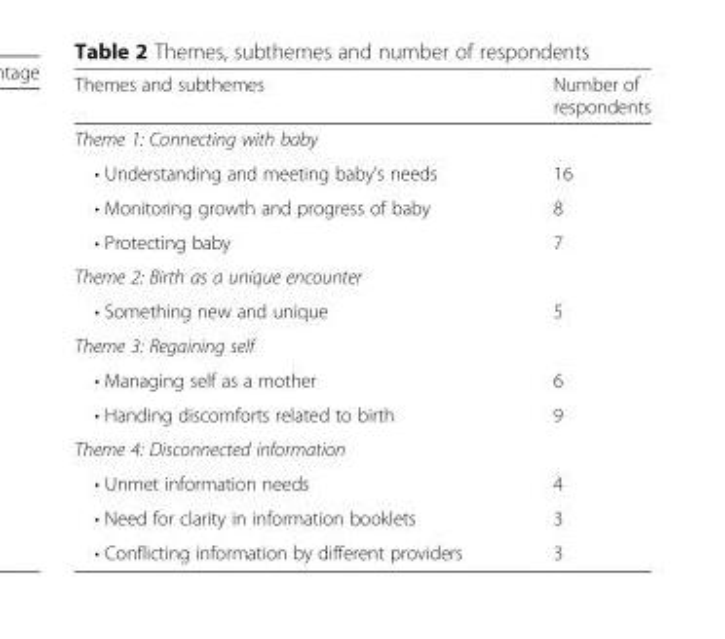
<table><thead><tr><td>Themes and subthemes</td><td>Number of respondents</td></tr></thead><tbody><tr><td colspan="2">Theme 1: Connecting with baby</td></tr><tr><td>• Understanding and meeting baby’s needs</td><td>16</td></tr><tr><td>• Monitoring growth and progress of baby</td><td>8</td></tr><tr><td>• Protecting baby</td><td>7</td></tr><tr><td colspan="2">Theme 2: Birth as a unique encounter</td></tr><tr><td>• Something new and unique</td><td>5</td></tr><tr><td colspan="2">Theme 3: Regaining self</td></tr><tr><td>• Managing self as a mother</td><td>6</td></tr><tr><td>• Handing discomforts related to birth</td><td>9</td></tr><tr><td colspan="2">Theme 4: Disconnected information</td></tr><tr><td>• Unmet information needs</td><td>4</td></tr><tr><td>• Need for clarity in information booklets</td><td>3</td></tr><tr><td>• Conflicting information by different providers</td><td>3</td></tr></tbody></table>